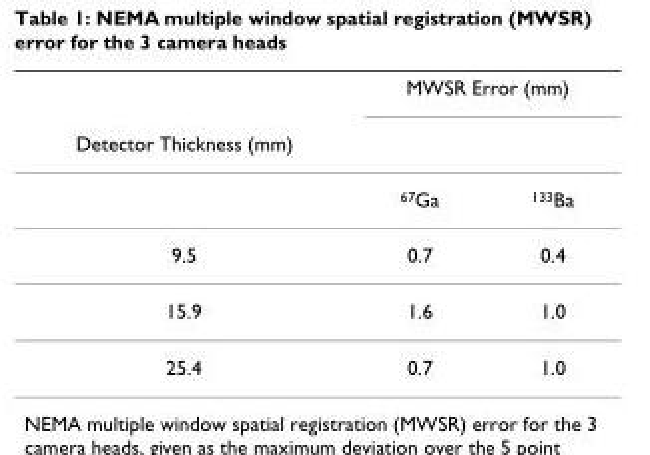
<table><thead><tr><td rowspan="2">Detector Thickness (mm)</td><td colspan="2">MWSR Error (mm)</td></tr><tr><td></td><td></td></tr></thead><tbody><tr><td></td><td><sup>67</sup>Ga</td><td><sup>133</sup>Ba</td></tr><tr><td>9.5</td><td>0.7</td><td>0.4</td></tr><tr><td>15.9</td><td>1.6</td><td>1.0</td></tr><tr><td>25.4</td><td>0.7</td><td>1.0</td></tr></tbody></table>